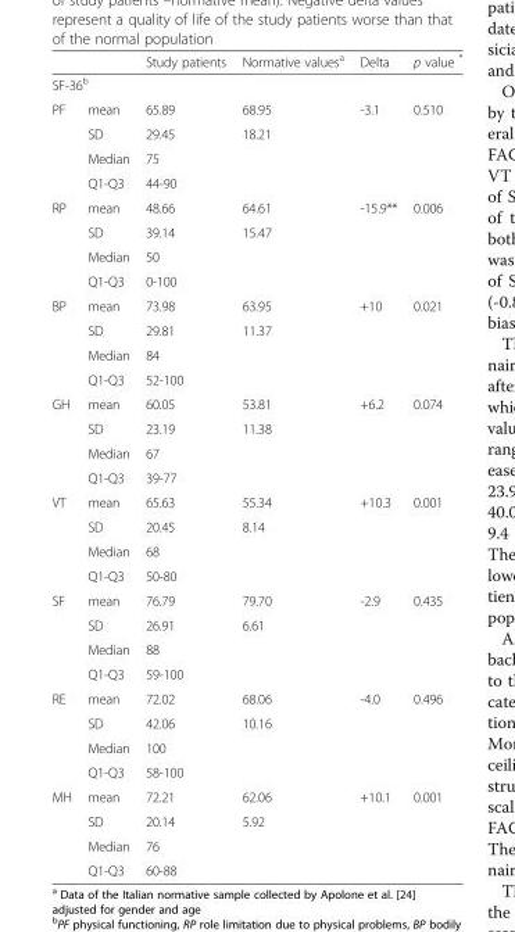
<table><thead><tr><td></td><td></td><td>Study patients</td><td>Normative values<sup>a</sup></td><td>Delta</td><td>p value *</td></tr></thead><tbody><tr><td colspan="6">SF-36<sup>b</sup></td></tr><tr><td rowspan="4">PF</td><td>mean</td><td>65.89</td><td>68.95</td><td>-3.1</td><td>0.510</td></tr><tr><td>SD</td><td>29.45</td><td>18.21</td><td></td><td></td></tr><tr><td>Median</td><td>75</td><td></td><td></td><td></td></tr><tr><td>Q1-Q3</td><td>44-90</td><td></td><td></td><td></td></tr><tr><td rowspan="4">RP</td><td>mean</td><td>48.66</td><td>64.61</td><td>-15.9**</td><td>0.006</td></tr><tr><td>SD</td><td>39.14</td><td>15.47</td><td></td><td></td></tr><tr><td>Median</td><td>50</td><td></td><td></td><td></td></tr><tr><td>Q1-Q3</td><td>0-100</td><td></td><td></td><td></td></tr><tr><td rowspan="4">BP</td><td>mean</td><td>73.98</td><td>63.95</td><td>+10</td><td>0.021</td></tr><tr><td>SD</td><td>29.81</td><td>11.37</td><td></td><td></td></tr><tr><td>Median</td><td>84</td><td></td><td></td><td></td></tr><tr><td>Q1-Q3</td><td>52-100</td><td></td><td></td><td></td></tr><tr><td rowspan="4">GH</td><td>mean</td><td>60.05</td><td>53.81</td><td>+6.2</td><td>0.074</td></tr><tr><td>SD</td><td>23.19</td><td>11.38</td><td></td><td></td></tr><tr><td>Median</td><td>67</td><td></td><td></td><td></td></tr><tr><td>Q1-Q3</td><td>39-77</td><td></td><td></td><td></td></tr><tr><td rowspan="4">VT</td><td>mean</td><td>65.63</td><td>55.34</td><td>+10.3</td><td>0.001</td></tr><tr><td>SD</td><td>20.45</td><td>8.14</td><td></td><td></td></tr><tr><td>Median</td><td>68</td><td></td><td></td><td></td></tr><tr><td>Q1-Q3</td><td>50-80</td><td></td><td></td><td></td></tr><tr><td rowspan="4">SF</td><td>mean</td><td>76.79</td><td>79.70</td><td>-2.9</td><td>0.435</td></tr><tr><td>SD</td><td>26.91</td><td>6.61</td><td></td><td></td></tr><tr><td>Median</td><td>88</td><td></td><td></td><td></td></tr><tr><td>Q1-Q3</td><td>59-100</td><td></td><td></td><td></td></tr><tr><td rowspan="4">RE</td><td>mean</td><td>72.02</td><td>68.06</td><td>-4.0</td><td>0.496</td></tr><tr><td>SD</td><td>42.06</td><td>10.16</td><td></td><td></td></tr><tr><td>Median</td><td>100</td><td></td><td></td><td></td></tr><tr><td>Q1-Q3</td><td>58-100</td><td></td><td></td><td></td></tr><tr><td rowspan="4">MH</td><td>mean</td><td>72.21</td><td>62.06</td><td>+10.1</td><td>0.001</td></tr><tr><td>SD</td><td>20.14</td><td>5.92</td><td></td><td></td></tr><tr><td>Median</td><td>76</td><td></td><td></td><td></td></tr><tr><td>Q1-Q3</td><td>60-88</td><td></td><td></td><td></td></tr></tbody></table>